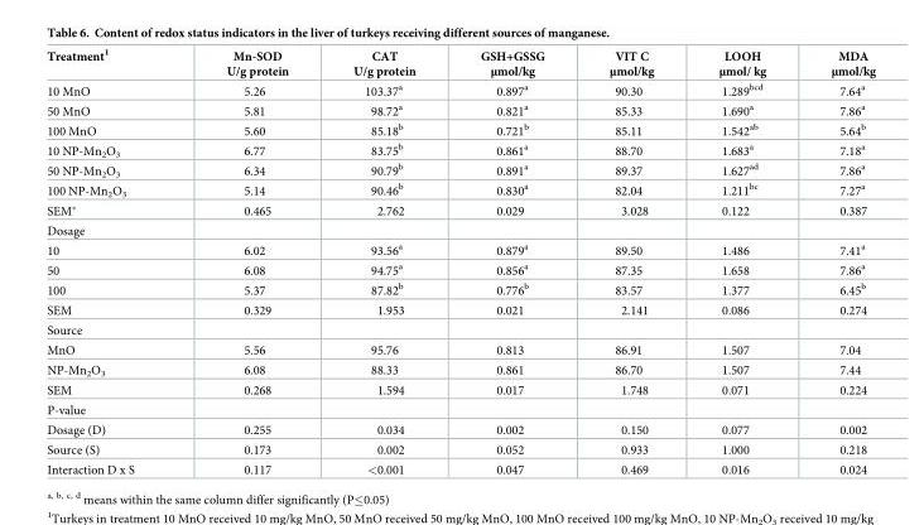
<table><thead><tr><td>Treatment<sup>1</sup></td><td>Mn-SOD U/g protein</td><td>CAT U/g protein</td><td>GSH+GSSG μmol/kg</td><td>VIT C μmol/kg</td><td>LOOH μmol/ kg</td><td>MDA μmol/kg</td></tr></thead><tbody><tr><td>10 MnO</td><td>5.26</td><td>103.37<sup>a</sup></td><td>0.897<sup>a</sup></td><td>90.30</td><td>1.289<sup>bcd</sup></td><td>7.64<sup>a</sup></td></tr><tr><td>50 MnO</td><td>5.81</td><td>98.72<sup>a</sup></td><td>0.821<sup>a</sup></td><td>85.33</td><td>1.690<sup>a</sup></td><td>7.86<sup>a</sup></td></tr><tr><td>100 MnO</td><td>5.60</td><td>85.18<sup>b</sup></td><td>0.721<sup>b</sup></td><td>85.11</td><td>1.542<sup>ab</sup></td><td>5.64<sup>b</sup></td></tr><tr><td>10 NP-Mn<sub>2</sub>O<sub>3</sub></td><td>6.77</td><td>83.75<sup>b</sup></td><td>0.861<sup>a</sup></td><td>88.70</td><td>1.683<sup>a</sup></td><td>7.18<sup>a</sup></td></tr><tr><td>50 NP-Mn<sub>2</sub>O<sub>3</sub></td><td>6.34</td><td>90.79<sup>b</sup></td><td>0.891<sup>a</sup></td><td>89.37</td><td>1.627<sup>ad</sup></td><td>7.86<sup>a</sup></td></tr><tr><td>100 NP-Mn<sub>2</sub>O<sub>3</sub></td><td>5.14</td><td>90.46<sup>b</sup></td><td>0.830<sup>a</sup></td><td>82.04</td><td>1.211<sup>bc</sup></td><td>7.27<sup>a</sup></td></tr><tr><td>SEM*</td><td>0.465</td><td>2.762</td><td>0.029</td><td>3.028</td><td>0.122</td><td>0.387</td></tr><tr><td colspan="7">Dosage</td></tr><tr><td>10</td><td>6.02</td><td>93.56<sup>a</sup></td><td>0.879<sup>a</sup></td><td>89.50</td><td>1.486</td><td>7.41<sup>a</sup></td></tr><tr><td>50</td><td>6.08</td><td>94.75<sup>a</sup></td><td>0.856<sup>a</sup></td><td>87.35</td><td>1.658</td><td>7.86<sup>a</sup></td></tr><tr><td>100</td><td>5.37</td><td>87.82<sup>b</sup></td><td>0.776<sup>b</sup></td><td>83.57</td><td>1.377</td><td>6.45<sup>b</sup></td></tr><tr><td>SEM</td><td>0.329</td><td>1.953</td><td>0.021</td><td>2.141</td><td>0.086</td><td>0.274</td></tr><tr><td colspan="7">Source</td></tr><tr><td>MnO</td><td>5.56</td><td>95.76</td><td>0.813</td><td>86.91</td><td>1.507</td><td>7.04</td></tr><tr><td>NP-Mn<sub>2</sub>O<sub>3</sub></td><td>6.08</td><td>88.33</td><td>0.861</td><td>86.70</td><td>1.507</td><td>7.44</td></tr><tr><td>SEM</td><td>0.268</td><td>1.594</td><td>0.017</td><td>1.748</td><td>0.071</td><td>0.224</td></tr><tr><td colspan="7">P-value</td></tr><tr><td>Dosage (D)</td><td>0.255</td><td>0.034</td><td>0.002</td><td>0.150</td><td>0.077</td><td>0.002</td></tr><tr><td>Source (S)</td><td>0.173</td><td>0.002</td><td>0.052</td><td>0.933</td><td>1.000</td><td>0.218</td></tr><tr><td>Interaction D x S</td><td>0.117</td><td>&lt;0.001</td><td>0.047</td><td>0.469</td><td>0.016</td><td>0.024</td></tr></tbody></table>